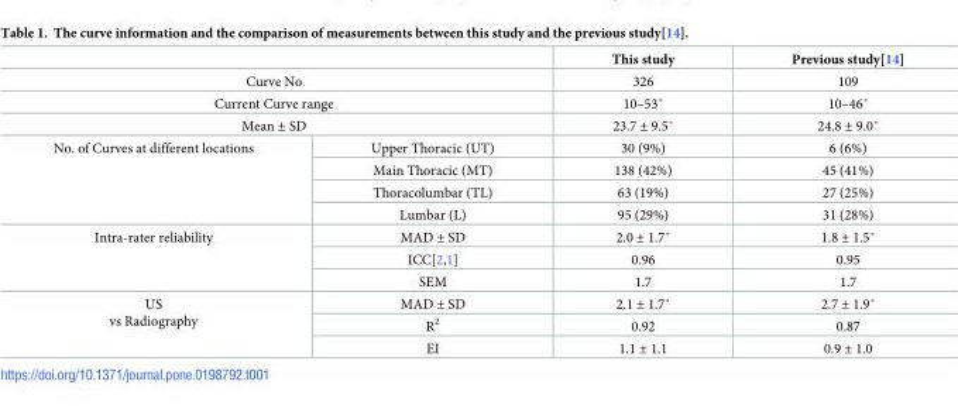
<table><thead><tr><td></td><td></td><td>This study</td><td>Previous study[14]</td></tr></thead><tbody><tr><td colspan="2">Curve No</td><td>326</td><td>109</td></tr><tr><td colspan="2">Current Curve range</td><td>10–53˚</td><td>10–46˚</td></tr><tr><td colspan="2">Mean ± SD</td><td>23.7 ± 9.5˚</td><td>24.8 ± 9.0˚</td></tr><tr><td rowspan="4">No. of Curves at different locations</td><td>Upper Thoracic (UT)</td><td>30 (9%)</td><td>6 (6%)</td></tr><tr><td>Main Thoracic (MT)</td><td>138 (42%)</td><td>45 (41%)</td></tr><tr><td>Thoracolumbar (TL)</td><td>63 (19%)</td><td>27 (25%)</td></tr><tr><td>Lumbar (L)</td><td>95 (29%)</td><td>31 (28%)</td></tr><tr><td rowspan="3">Intra-rater reliability</td><td>MAD ± SD</td><td>2.0 ± 1.7˚</td><td>1.8 ± 1.5˚</td></tr><tr><td>ICC[2,1]</td><td>0.96</td><td>0.95</td></tr><tr><td>SEM</td><td>1.7</td><td>1.7</td></tr><tr><td rowspan="3">US vs Radiography</td><td>MAD ± SD</td><td>2.1 ± 1.7˚</td><td>2.7 ± 1.9˚</td></tr><tr><td>R<sup>2</sup></td><td>0.92</td><td>0.87</td></tr><tr><td>EI</td><td>1.1 ± 1.1</td><td>0.9 ± 1.0</td></tr></tbody></table>